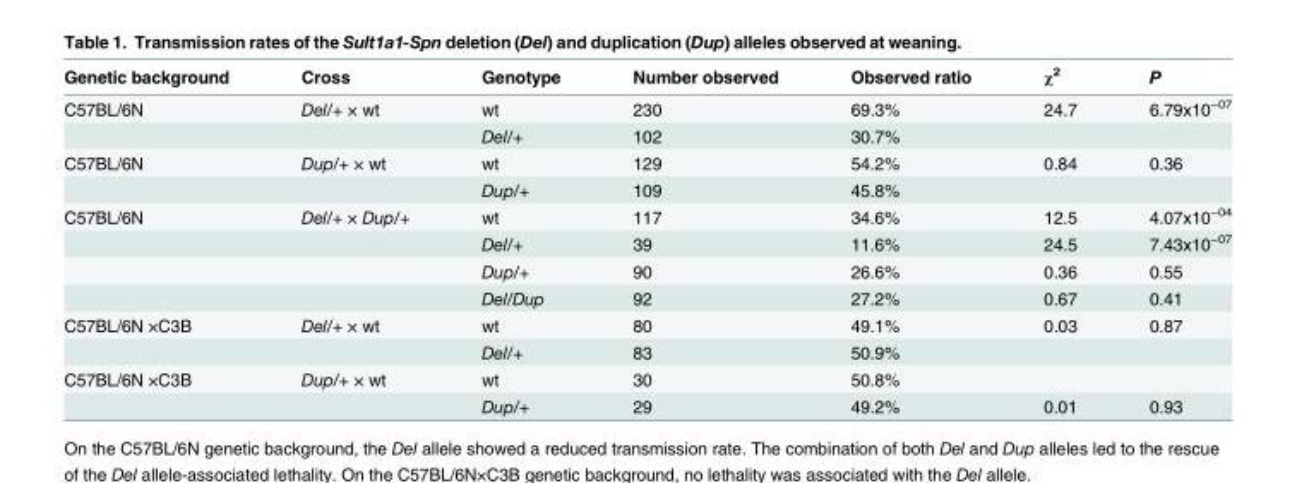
<table><thead><tr><td>Genetic background</td><td>Cross</td><td>Genotype</td><td>Number observed</td><td>Observed ratio</td><td>χ<sup>2</sup></td><td>P</td></tr></thead><tbody><tr><td rowspan="2">C57BL/6N</td><td>Del/+ × wt</td><td>wt</td><td>230</td><td>69.3%</td><td>24.7</td><td>6.79x10<sup>−07</sup></td></tr><tr><td></td><td>Del/+</td><td>102</td><td>30.7%</td><td></td><td></td></tr><tr><td rowspan="2">C57BL/6N</td><td>Dup/+ × wt</td><td>wt</td><td>129</td><td>54.2%</td><td>0.84</td><td>0.36</td></tr><tr><td></td><td>Dup/+</td><td>109</td><td>45.8%</td><td></td><td></td></tr><tr><td rowspan="4">C57BL/6N</td><td>Del/+ × Dup/+</td><td>wt</td><td>117</td><td>34.6%</td><td>12.5</td><td>4.07x10<sup>−04</sup></td></tr><tr><td></td><td>Del/+</td><td>39</td><td>11.6%</td><td>24.5</td><td>7.43x10<sup>−07</sup></td></tr><tr><td></td><td>Dup/+</td><td>90</td><td>26.6%</td><td>0.36</td><td>0.55</td></tr><tr><td></td><td>Del/Dup</td><td>92</td><td>27.2%</td><td>0.67</td><td>0.41</td></tr><tr><td rowspan="2">C57BL/6N ×C3B</td><td>Del/+ × wt</td><td>wt</td><td>80</td><td>49.1%</td><td>0.03</td><td>0.87</td></tr><tr><td></td><td>Del/+</td><td>83</td><td>50.9%</td><td></td><td></td></tr><tr><td rowspan="2">C57BL/6N ×C3B</td><td>Dup/+ × wt</td><td>wt</td><td>30</td><td>50.8%</td><td></td><td></td></tr><tr><td></td><td>Dup/+</td><td>29</td><td>49.2%</td><td>0.01</td><td>0.93</td></tr></tbody></table>